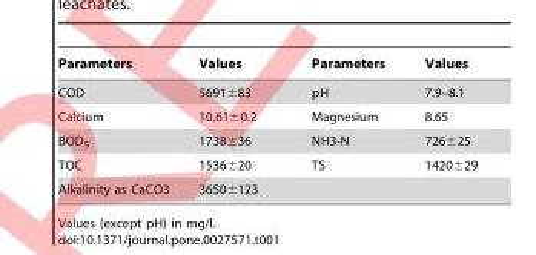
<table><thead><tr><td>Parameters</td><td>Values</td><td>Parameters</td><td>Values</td></tr></thead><tbody><tr><td>COD</td><td>5691±83</td><td>pH</td><td>7.9–8.1</td></tr><tr><td>Calcium</td><td>10.61±0.2</td><td>Magnesium</td><td>8.65</td></tr><tr><td>BOD5</td><td>1738±36</td><td>NH3-N</td><td>726±25</td></tr><tr><td>TOC</td><td>1536±20</td><td>TS</td><td>1420±29</td></tr><tr><td>Alkalinity as CaCO3</td><td>3650±123</td><td></td><td></td></tr></tbody></table>